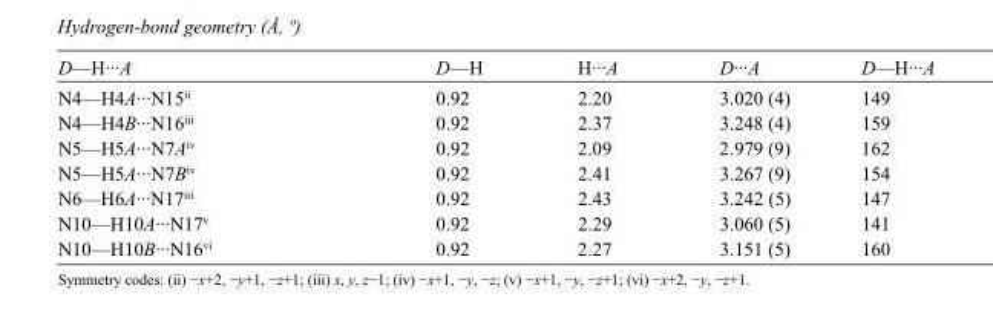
<table><tbody><tr><td>D—H···A</td><td>D—H</td><td>H···A</td><td>D···A</td><td>D—H···A</td></tr><tr><td>N4—H4A···N15<sup>ii</sup></td><td>0.92</td><td>2.20</td><td>3.020 (4)</td><td>149</td></tr><tr><td>N4—H4B···N16<sup>iii</sup></td><td>0.92</td><td>2.37</td><td>3.248 (4)</td><td>159</td></tr><tr><td>N5—H5A···N7A<sup>iv</sup></td><td>0.92</td><td>2.09</td><td>2.979 (9)</td><td>162</td></tr><tr><td>N5—H5A···N7B<sup>iv</sup></td><td>0.92</td><td>2.41</td><td>3.267 (9)</td><td>154</td></tr><tr><td>N6—H6A···N17<sup>iii</sup></td><td>0.92</td><td>2.43</td><td>3.242 (5)</td><td>147</td></tr><tr><td>N10—H10A···N17<sup>v</sup></td><td>0.92</td><td>2.29</td><td>3.060 (5)</td><td>141</td></tr><tr><td>N10—H10B···N16<sup>vi</sup></td><td>0.92</td><td>2.27</td><td>3.151 (5)</td><td>160</td></tr></tbody></table>